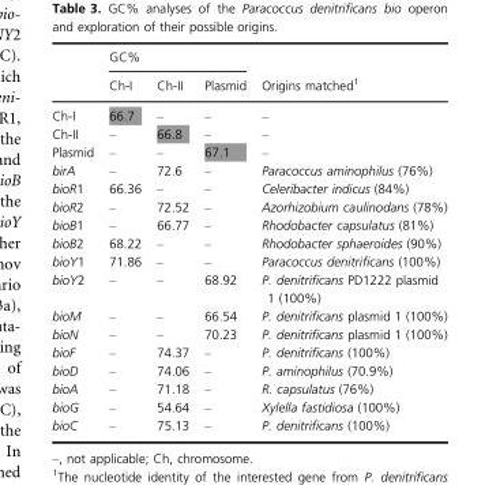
<table><thead><tr><td rowspan="2"></td><td colspan="3">GC%</td><td rowspan="2">Origins matched<sup>1</sup></td></tr><tr><td>Ch-I</td><td>Ch-II</td><td>Plasmid</td></tr></thead><tbody><tr><td>Ch-I</td><td>66.7</td><td>–</td><td>–</td><td>–</td></tr><tr><td>Ch-II</td><td>–</td><td>66.8</td><td>–</td><td>–</td></tr><tr><td>Plasmid</td><td>–</td><td>–</td><td>67.1</td><td>–</td></tr><tr><td>birA</td><td>–</td><td>72.6</td><td>–</td><td>Paracoccus aminophilus (76%)</td></tr><tr><td>bioR1</td><td>66.36</td><td>–</td><td>–</td><td>Celeribacter indicus (84%)</td></tr><tr><td>bioR2</td><td>–</td><td>72.52</td><td>–</td><td>Azorhizobium caulinodans (78%)</td></tr><tr><td>bioB1</td><td>–</td><td>66.77</td><td>–</td><td>Rhodobacter capsulatus (81%)</td></tr><tr><td>bioB2</td><td>68.22</td><td>–</td><td>–</td><td>Rhodobacter sphaeroides (90%)</td></tr><tr><td>bioY1</td><td>71.86</td><td>–</td><td>–</td><td>Paracoccus denitrificans (100%)</td></tr><tr><td>bioY2</td><td>–</td><td>–</td><td>68.92</td><td>P. denitrificans PD1222 plasmid 1 (100%)</td></tr><tr><td>bioM</td><td>–</td><td>–</td><td>66.54</td><td>P. denitrificans plasmid 1 (100%)</td></tr><tr><td>bioN</td><td>–</td><td>–</td><td>70.23</td><td>P. denitrificans plasmid 1 (100%)</td></tr><tr><td>bioF</td><td>–</td><td>74.37</td><td>–</td><td>P. denitrificans (100%)</td></tr><tr><td>bioD</td><td>–</td><td>74.06</td><td>–</td><td>P. aminophilus (70.9%)</td></tr><tr><td>bioA</td><td>–</td><td>71.18</td><td>–</td><td>R. capsulatus (76%)</td></tr><tr><td>bioG</td><td>–</td><td>54.64</td><td>–</td><td>Xylella fastidiosa (100%)</td></tr><tr><td>bioC</td><td>–</td><td>75.13</td><td>–</td><td>P. denitrificans (100%)</td></tr></tbody></table>